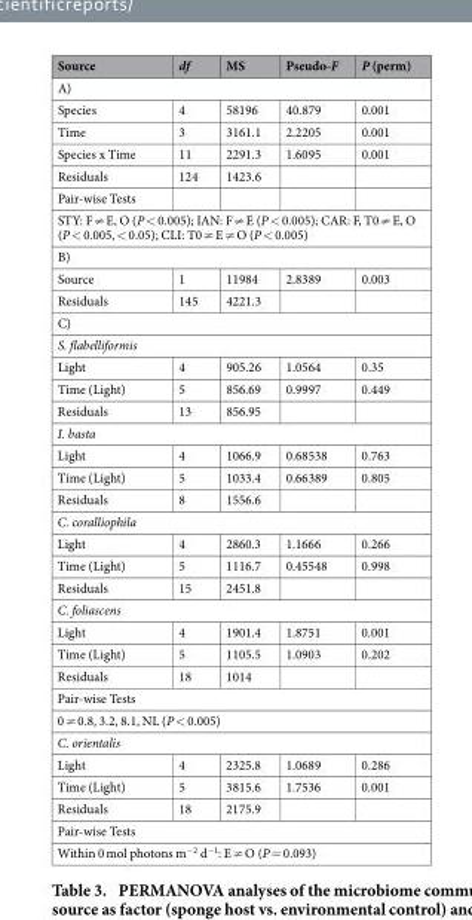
<table><thead><tr><td>Source</td><td>df</td><td>MS</td><td>Pseudo-F</td><td>P (perm)</td></tr></thead><tbody><tr><td colspan="5">A)</td></tr><tr><td>Species</td><td>4</td><td>58196</td><td>40.879</td><td>0.001</td></tr><tr><td>Time</td><td>3</td><td>3161.1</td><td>2.2205</td><td>0.001</td></tr><tr><td>Species x Time</td><td>11</td><td>2291.3</td><td>1.6095</td><td>0.001</td></tr><tr><td>Residuals</td><td>124</td><td>1423.6</td><td></td><td></td></tr><tr><td colspan="5">Pair-wise Tests</td></tr><tr><td colspan="5">STY: F ≠ E, O (P &lt; 0.005); IAN: F ≠ E (P &lt; 0.005); CAR: F, T0 ≠ E, O (P &lt; 0.005, &lt; 0.05); CLI: T0 ≠ E ≠ O (P &lt; 0.005)</td></tr><tr><td colspan="5">B)</td></tr><tr><td>Source</td><td>1</td><td>11984</td><td>2.8389</td><td>0.003</td></tr><tr><td>Residuals</td><td>145</td><td>4221.3</td><td></td><td></td></tr><tr><td colspan="5">C)</td></tr><tr><td colspan="5">S. flabelliformis</td></tr><tr><td>Light</td><td>4</td><td>905.26</td><td>1.0564</td><td>0.35</td></tr><tr><td>Time (Light)</td><td>5</td><td>856.69</td><td>0.9997</td><td>0.449</td></tr><tr><td>Residuals</td><td>13</td><td>856.95</td><td></td><td></td></tr><tr><td colspan="5">I. basta</td></tr><tr><td>Light</td><td>4</td><td>1066.9</td><td>0.68538</td><td>0.763</td></tr><tr><td>Time (Light)</td><td>5</td><td>1033.4</td><td>0.66389</td><td>0.805</td></tr><tr><td>Residuals</td><td>8</td><td>1556.6</td><td></td><td></td></tr><tr><td colspan="5">C. coralliophila</td></tr><tr><td>Light</td><td>4</td><td>2860.3</td><td>1.1666</td><td>0.266</td></tr><tr><td>Time (Light)</td><td>5</td><td>1116.7</td><td>0.45548</td><td>0.998</td></tr><tr><td>Residuals</td><td>15</td><td>2451.8</td><td></td><td></td></tr><tr><td colspan="5">C. foliascens</td></tr><tr><td>Light</td><td>4</td><td>1901.4</td><td>1.8751</td><td>0.001</td></tr><tr><td>Time (Light)</td><td>5</td><td>1105.5</td><td>1.0903</td><td>0.202</td></tr><tr><td>Residuals</td><td>18</td><td>1014</td><td></td><td></td></tr><tr><td colspan="5">Pair-wise Tests</td></tr><tr><td colspan="5">0 ≠ 0.8, 3.2, 8.1, NL (P &lt; 0.005)</td></tr><tr><td colspan="5">C. orientalis</td></tr><tr><td>Light</td><td>4</td><td>2325.8</td><td>1.0689</td><td>0.286</td></tr><tr><td>Time (Light)</td><td>5</td><td>3815.6</td><td>1.7536</td><td>0.001</td></tr><tr><td>Residuals</td><td>18</td><td>2175.9</td><td></td><td></td></tr><tr><td colspan="5">Pair-wise Tests</td></tr><tr><td colspan="5">Within 0 mol photons m<sup>−2</sup> d<sup>−1</sup>: E ≠ O (P = 0.093)</td></tr></tbody></table>